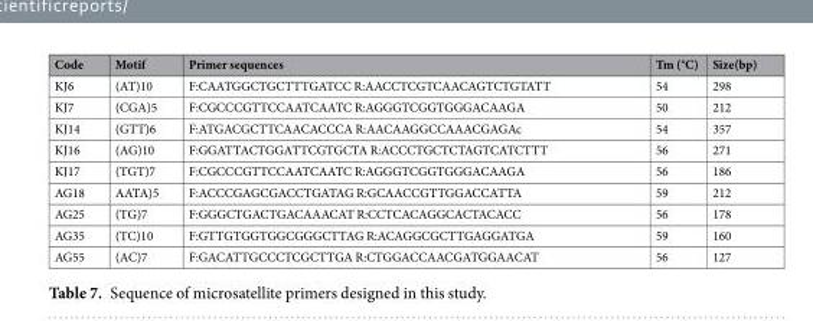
<table><thead><tr><td>Code</td><td>Motif</td><td>Primer sequences</td><td>Tm (°C)</td><td>Size(bp)</td></tr></thead><tbody><tr><td>KJ6</td><td>(AT)10</td><td>F:CAATGGCTGCTTTGATCC R:AACCTCGTCAACAGTCTGTATT</td><td>54</td><td>298</td></tr><tr><td>KJ7</td><td>(CGA)5</td><td>F:CGCCCGTTCCAATCAATC R:AGGGTCGGTGGGACAAGA</td><td>50</td><td>212</td></tr><tr><td>KJ14</td><td>(GTT)6</td><td>F:ATGACGCTTCAACACCCA R:AACAAGGCCAAACGAGAc</td><td>54</td><td>357</td></tr><tr><td>KJ16</td><td>(AG)10</td><td>F:GGATTACTGGATTCGTGCTA R:ACCCTGCTCTAGTCATCTTT</td><td>56</td><td>271</td></tr><tr><td>KJ17</td><td>(TGT)7</td><td>F:CGCCCGTTCCAATCAATC R:AGGGTCGGTGGGACAAGA</td><td>56</td><td>186</td></tr><tr><td>AG18</td><td>AATA)5</td><td>F:ACCCGAGCGACCTGATAG R:GCAACCGTTGGACCATTA</td><td>59</td><td>212</td></tr><tr><td>AG25</td><td>(TG)7</td><td>F:GGGCTGACTGACAAACAT R:CCTCACAGGCACTACACC</td><td>56</td><td>178</td></tr><tr><td>AG35</td><td>(TC)10</td><td>F:GTTGTGGTGGCGGGCTTAG R:ACAGGCGCTTGAGGATGA</td><td>59</td><td>160</td></tr><tr><td>AG55</td><td>(AC)7</td><td>F:GACATTGCCCTCGCTTGA R:CTGGACCAACGATGGAACAT</td><td>56</td><td>127</td></tr></tbody></table>